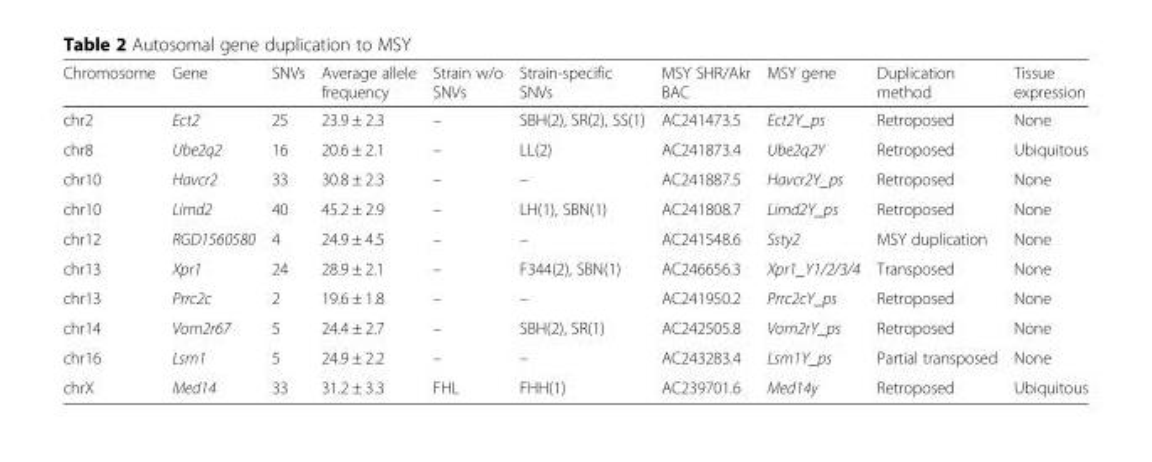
<table><thead><tr><td>Chromosome</td><td>Gene</td><td>SNVs</td><td>Average allele frequency</td><td>Strain w/o SNVs</td><td>Strain-specific SNVs</td><td>MSY SHR/Akr BAC</td><td>MSY gene</td><td>Duplication method</td><td>Tissue expression</td></tr></thead><tbody><tr><td>chr2</td><td>Ect2</td><td>25</td><td>23.9 ± 2.3</td><td>–</td><td>SBH(2), SR(2), SS(1)</td><td>AC241473.5</td><td>Ect2Y_ps</td><td>Retroposed</td><td>None</td></tr><tr><td>chr8</td><td>Ube2q2</td><td>16</td><td>20.6 ± 2.1</td><td>–</td><td>LL(2)</td><td>AC241873.4</td><td>Ube2q2Y</td><td>Retroposed</td><td>Ubiquitous</td></tr><tr><td>chr10</td><td>Havcr2</td><td>33</td><td>30.8 ± 2.3</td><td>–</td><td>–</td><td>AC241887.5</td><td>Havcr2Y_ps</td><td>Retroposed</td><td>None</td></tr><tr><td>chr10</td><td>Limd2</td><td>40</td><td>45.2 ± 2.9</td><td>–</td><td>LH(1), SBN(1)</td><td>AC241808.7</td><td>Limd2Y_ps</td><td>Retroposed</td><td>None</td></tr><tr><td>chr12</td><td>RGD1560580</td><td>4</td><td>24.9 ± 4.5</td><td>–</td><td>–</td><td>AC241548.6</td><td>Ssty2</td><td>MSY duplication</td><td>None</td></tr><tr><td>chr13</td><td>Xpr1</td><td>24</td><td>28.9 ± 2.1</td><td>–</td><td>F344(2), SBN(1)</td><td>AC246656.3</td><td>Xpr1_Y1/2/3/4</td><td>Transposed</td><td>None</td></tr><tr><td>chr13</td><td>Prrc2c</td><td>2</td><td>19.6 ± 1.8</td><td>–</td><td>–</td><td>AC241950.2</td><td>Prrc2cY_ps</td><td>Retroposed</td><td>None</td></tr><tr><td>chr14</td><td>Vom2r67</td><td>5</td><td>24.4 ± 2.7</td><td>–</td><td>SBH(2), SR(1)</td><td>AC242505.8</td><td>Vom2rY_ps</td><td>Retroposed</td><td>None</td></tr><tr><td>chr16</td><td>Lsm1</td><td>5</td><td>24.9 ± 2.2</td><td>–</td><td>–</td><td>AC243283.4</td><td>Lsm1Y_ps</td><td>Partial transposed</td><td>None</td></tr><tr><td>chrX</td><td>Med14</td><td>33</td><td>31.2 ± 3.3</td><td>FHL</td><td>FHH(1)</td><td>AC239701.6</td><td>Med14y</td><td>Retroposed</td><td>Ubiquitous</td></tr></tbody></table>